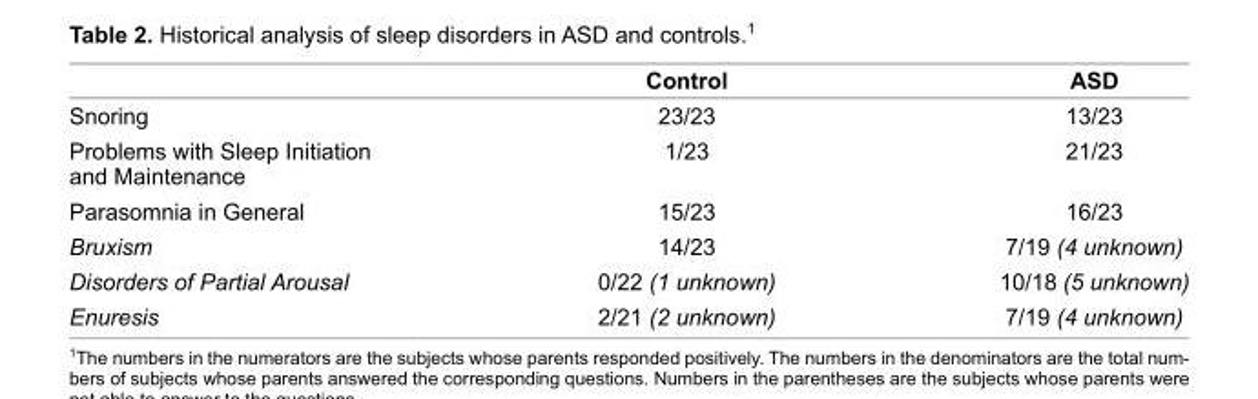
<table><thead><tr><td></td><td>Control</td><td>ASD</td></tr></thead><tbody><tr><td>Snoring</td><td>23/23</td><td>13/23</td></tr><tr><td>Problems with Sleep Initiation and Maintenance</td><td>1/23</td><td>21/23</td></tr><tr><td>Parasomnia in General</td><td>15/23</td><td>16/23</td></tr><tr><td>Bruxism</td><td>14/23</td><td>7/19 (4 unknown)</td></tr><tr><td>Disorders of Partial Arousal</td><td>0/22 (1 unknown)</td><td>10/18 (5 unknown)</td></tr><tr><td>Enuresis</td><td>2/21 (2 unknown)</td><td>7/19 (4 unknown)</td></tr></tbody></table>